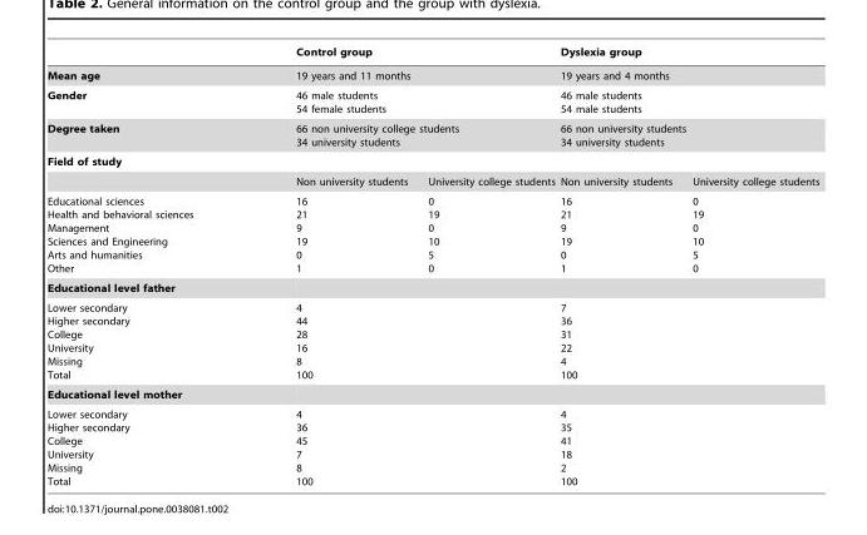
<table><thead><tr><td></td><td colspan="2">Control group</td><td colspan="2">Dyslexia group</td></tr></thead><tbody><tr><td>Mean age</td><td colspan="2">19 years and 11 months</td><td colspan="2">19 years and 4 months</td></tr><tr><td>Gender</td><td colspan="2">46 male students 54 female students</td><td colspan="2">46 male students 54 male students</td></tr><tr><td>Degree taken</td><td colspan="2">66 non university college students 34 university students</td><td colspan="2">66 non university students 34 university students</td></tr><tr><td colspan="5">Field of study</td></tr><tr><td></td><td>Non university students</td><td>University college students</td><td>Non university students</td><td>University college students</td></tr><tr><td>Educational sciences Health and behavioral sciences Management Sciences and Engineering Arts and humanities Other</td><td>16 21 9 19 0 1</td><td>0 19 0 10 5 0</td><td>16 21 9 19 0 1</td><td>0 19 0 10 5 0</td></tr><tr><td colspan="5">Educational level father</td></tr><tr><td>Lower secondary Higher secondary College University Missing Total</td><td colspan="2">4 44 28 16 8 100</td><td colspan="2">7 36 31 22 4 100</td></tr><tr><td colspan="5">Educational level mother</td></tr><tr><td>Lower secondary Higher secondary College University Missing Total</td><td colspan="2">4 36 45 7 8 100</td><td colspan="2">4 35 41 18 2 100</td></tr></tbody></table>